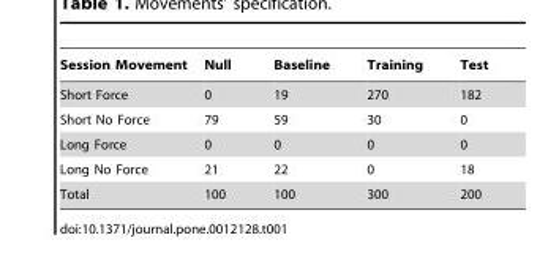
<table><thead><tr><td>Session Movement</td><td>Null</td><td>Baseline</td><td>Training</td><td>Test</td></tr></thead><tbody><tr><td>Short Force</td><td>0</td><td>19</td><td>270</td><td>182</td></tr><tr><td>Short No Force</td><td>79</td><td>59</td><td>30</td><td>0</td></tr><tr><td>Long Force</td><td>0</td><td>0</td><td>0</td><td>0</td></tr><tr><td>Long No Force</td><td>21</td><td>22</td><td>0</td><td>18</td></tr><tr><td>Total</td><td>100</td><td>100</td><td>300</td><td>200</td></tr></tbody></table>